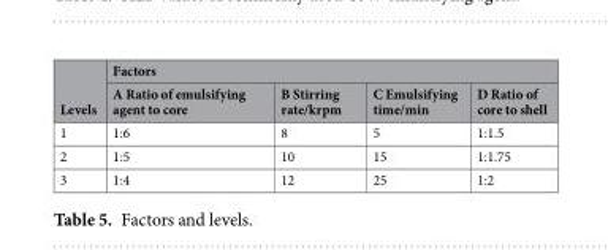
<table><thead><tr><td rowspan="2">Levels</td><td colspan="4">Factors</td></tr><tr><td>A Ratio of emulsifying agent to core</td><td>B Stirring rate/krpm</td><td>C Emulsifying time/min</td><td>D Ratio of core to shell</td></tr></thead><tbody><tr><td>1</td><td>1:6</td><td>8</td><td>5</td><td>1:1.5</td></tr><tr><td>2</td><td>1:5</td><td>10</td><td>15</td><td>1:1.75</td></tr><tr><td>3</td><td>1:4</td><td>12</td><td>25</td><td>1:2</td></tr></tbody></table>